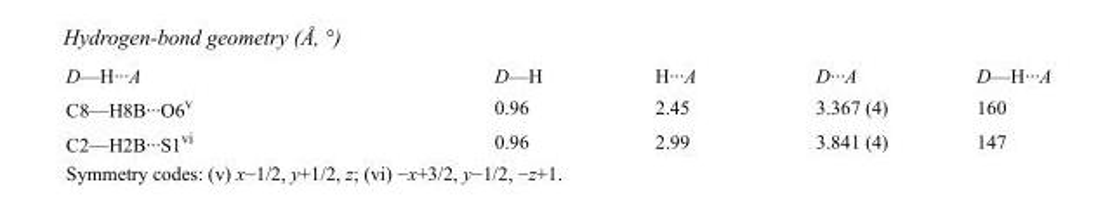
<table><tbody><tr><td>D—H···A</td><td>D—H</td><td>H···A</td><td>D···A</td><td>D—H···A</td></tr><tr><td>C8—H8B···O6<sup>v</sup></td><td>0.96</td><td>2.45</td><td>3.367 (4)</td><td>160</td></tr><tr><td>C2—H2B···S1<sup>vi</sup></td><td>0.96</td><td>2.99</td><td>3.841 (4)</td><td>147</td></tr></tbody></table>